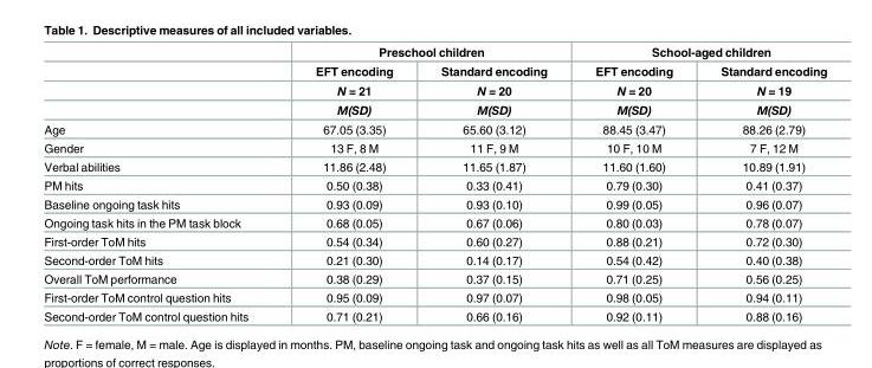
<table><thead><tr><td rowspan="4"></td><td colspan="2">Preschool children</td><td colspan="2">School-aged children</td></tr><tr><td rowspan="3">EFT encoding N = 21 M(SD)</td><td rowspan="3">Standard encoding N = 20 M(SD)</td><td rowspan="3">EFT encoding N = 20 M(SD)</td><td rowspan="3">Standard encoding N = 19 M(SD)</td></tr><tr></tr><tr></tr></thead><tbody><tr><td>Age</td><td>67.05 (3.35)</td><td>65.60 (3.12)</td><td>88.45 (3.47)</td><td>88.26 (2.79)</td></tr><tr><td>Gender</td><td>13 F, 8 M</td><td>11 F, 9 M</td><td>10 F, 10 M</td><td>7 F, 12 M</td></tr><tr><td>Verbal abilities</td><td>11.86 (2.48)</td><td>11.65 (1.87)</td><td>11.60 (1.60)</td><td>10.89 (1.91)</td></tr><tr><td>PM hits</td><td>0.50 (0.38)</td><td>0.33 (0.41)</td><td>0.79 (0.30)</td><td>0.41 (0.37)</td></tr><tr><td>Baseline ongoing task hits</td><td>0.93 (0.09)</td><td>0.93 (0.10)</td><td>0.99 (0.05)</td><td>0.96 (0.07)</td></tr><tr><td>Ongoing task hits in the PM task block</td><td>0.68 (0.05)</td><td>0.67 (0.06)</td><td>0.80 (0.03)</td><td>0.78 (0.07)</td></tr><tr><td>First-order ToM hits</td><td>0.54 (0.34)</td><td>0.60 (0.27)</td><td>0.88 (0.21)</td><td>0.72 (0.30)</td></tr><tr><td>Second-order ToM hits</td><td>0.21 (0.30)</td><td>0.14 (0.17)</td><td>0.54 (0.42)</td><td>0.40 (0.38)</td></tr><tr><td>Overall ToM performance</td><td>0.38 (0.29)</td><td>0.37 (0.15)</td><td>0.71 (0.25)</td><td>0.56 (0.25)</td></tr><tr><td>First-order ToM control question hits</td><td>0.95 (0.09)</td><td>0.97 (0.07)</td><td>0.98 (0.05)</td><td>0.94 (0.11)</td></tr><tr><td>Second-order ToM control question hits</td><td>0.71 (0.21)</td><td>0.66 (0.16)</td><td>0.92 (0.11)</td><td>0.88 (0.16)</td></tr></tbody></table>